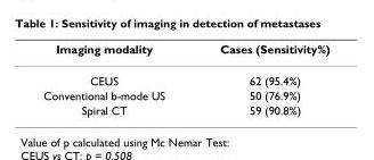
<table><thead><tr><td>Imaging modality</td><td>Cases (Sensitivity%)</td></tr></thead><tbody><tr><td>CEUS</td><td>62 (95.4%)</td></tr><tr><td>Conventional b-mode US</td><td>50 (76.9%)</td></tr><tr><td>Spiral CT</td><td>59 (90.8%)</td></tr></tbody></table>